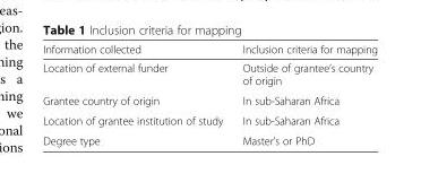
<table><thead><tr><td>Information collected</td><td>Inclusion criteria for mapping</td></tr></thead><tbody><tr><td>Location of external funder</td><td>Outside of grantee’s country of origin</td></tr><tr><td>Grantee country of origin</td><td>In sub-Saharan Africa</td></tr><tr><td>Location of grantee institution of study</td><td>In sub-Saharan Africa</td></tr><tr><td>Degree type</td><td>Master’s or PhD</td></tr></tbody></table>